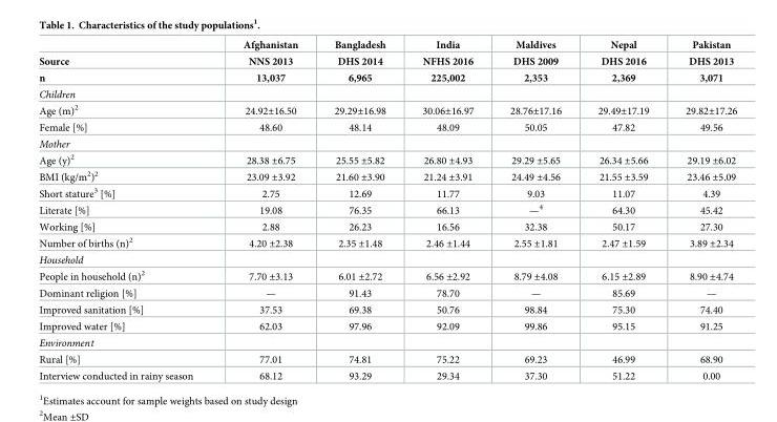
<table><thead><tr><td rowspan="3">Source n</td><td rowspan="3">Afghanistan NNS 2013 13,037</td><td rowspan="3">Bangladesh DHS 2014 6,965</td><td rowspan="3">India NFHS 2016 225,002</td><td rowspan="3">Maldives DHS 2009 2,353</td><td rowspan="3">Nepal DHS 2016 2,369</td><td rowspan="3">Pakistan DHS 2013 3,071</td></tr><tr></tr><tr></tr></thead><tbody><tr><td colspan="7">Children</td></tr><tr><td>Age (m)<sup>2</sup></td><td>24.92±16.50</td><td>29.29±16.98</td><td>30.06±16.97</td><td>28.76±17.16</td><td>29.49±17.19</td><td>29.82±17.26</td></tr><tr><td>Female [%]</td><td>48.60</td><td>48.14</td><td>48.09</td><td>50.05</td><td>47.82</td><td>49.56</td></tr><tr><td colspan="7">Mother</td></tr><tr><td>Age (y)<sup>2</sup></td><td>28.38 ±6.75</td><td>25.55 ±5.82</td><td>26.80 ±4.93</td><td>29.29 ±5.65</td><td>26.34 ±5.66</td><td>29.19 ±6.02</td></tr><tr><td>BMI (kg/m<sup>2</sup>)<sup>2</sup></td><td>23.09 ±3.92</td><td>21.60 ±3.90</td><td>21.24 ±3.91</td><td>24.49 ±4.56</td><td>21.55 ±3.59</td><td>23.46 ±5.09</td></tr><tr><td>Short stature<sup>3</sup> [%]</td><td>2.75</td><td>12.69</td><td>11.77</td><td>9.03</td><td>11.07</td><td>4.39</td></tr><tr><td>Literate [%]</td><td>19.08</td><td>76.35</td><td>66.13</td><td>—<sup>4</sup></td><td>64.30</td><td>45.42</td></tr><tr><td>Working [%]</td><td>2.88</td><td>26.23</td><td>16.56</td><td>32.38</td><td>50.17</td><td>27.30</td></tr><tr><td>Number of births (n)<sup>2</sup></td><td>4.20 ±2.38</td><td>2.35 ±1.48</td><td>2.46 ±1.44</td><td>2.55 ±1.81</td><td>2.47 ±1.59</td><td>3.89 ±2.34</td></tr><tr><td colspan="7">Household</td></tr><tr><td>People in household (n)<sup>2</sup></td><td>7.70 ±3.13</td><td>6.01 ±2.72</td><td>6.56 ±2.92</td><td>8.79 ±4.08</td><td>6.15 ±2.89</td><td>8.90 ±4.74</td></tr><tr><td>Dominant religion [%]</td><td>—</td><td>91.43</td><td>78.70</td><td>—</td><td>85.69</td><td>—</td></tr><tr><td>Improved sanitation [%]</td><td>37.53</td><td>69.38</td><td>50.76</td><td>98.84</td><td>75.30</td><td>74.40</td></tr><tr><td>Improved water [%]</td><td>62.03</td><td>97.96</td><td>92.09</td><td>99.86</td><td>95.15</td><td>91.25</td></tr><tr><td colspan="7">Environment</td></tr><tr><td>Rural [%]</td><td>77.01</td><td>74.81</td><td>75.22</td><td>69.23</td><td>46.99</td><td>68.90</td></tr><tr><td>Interview conducted in rainy season</td><td>68.12</td><td>93.29</td><td>29.34</td><td>37.30</td><td>51.22</td><td>0.00</td></tr></tbody></table>